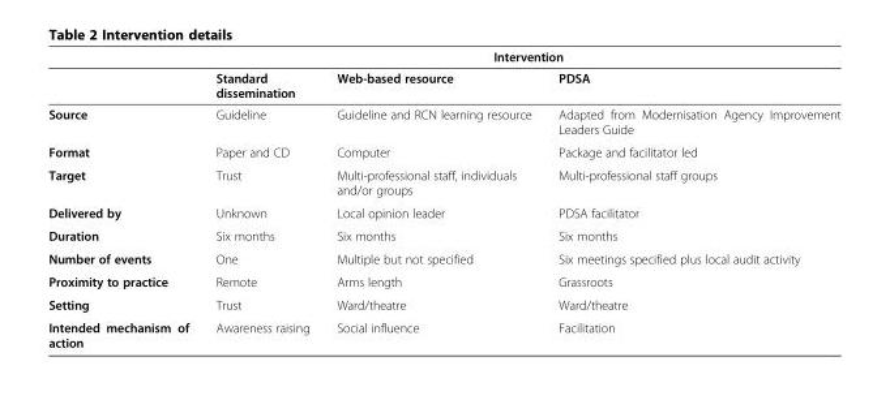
<table><thead><tr><td rowspan="2"></td><td colspan="3">Intervention</td></tr><tr><td>Standard dissemination</td><td>Web-based resource</td><td>PDSA</td></tr></thead><tbody><tr><td>Source</td><td>Guideline</td><td>Guideline and RCN learning resource</td><td>Adapted from Modernisation Agency Improvement Leaders Guide</td></tr><tr><td>Format</td><td>Paper and CD</td><td>Computer</td><td>Package and facilitator led</td></tr><tr><td>Target</td><td>Trust</td><td>Multi-professional staff, individuals and/or groups</td><td>Multi-professional staff groups</td></tr><tr><td>Delivered by</td><td>Unknown</td><td>Local opinion leader</td><td>PDSA facilitator</td></tr><tr><td>Duration</td><td>Six months</td><td>Six months</td><td>Six months</td></tr><tr><td>Number of events</td><td>One</td><td>Multiple but not specified</td><td>Six meetings specified plus local audit activity</td></tr><tr><td>Proximity to practice</td><td>Remote</td><td>Arms length</td><td>Grassroots</td></tr><tr><td>Setting</td><td>Trust</td><td>Ward/theatre</td><td>Ward/theatre</td></tr><tr><td>Intended mechanism of action</td><td>Awareness raising</td><td>Social influence</td><td>Facilitation</td></tr></tbody></table>